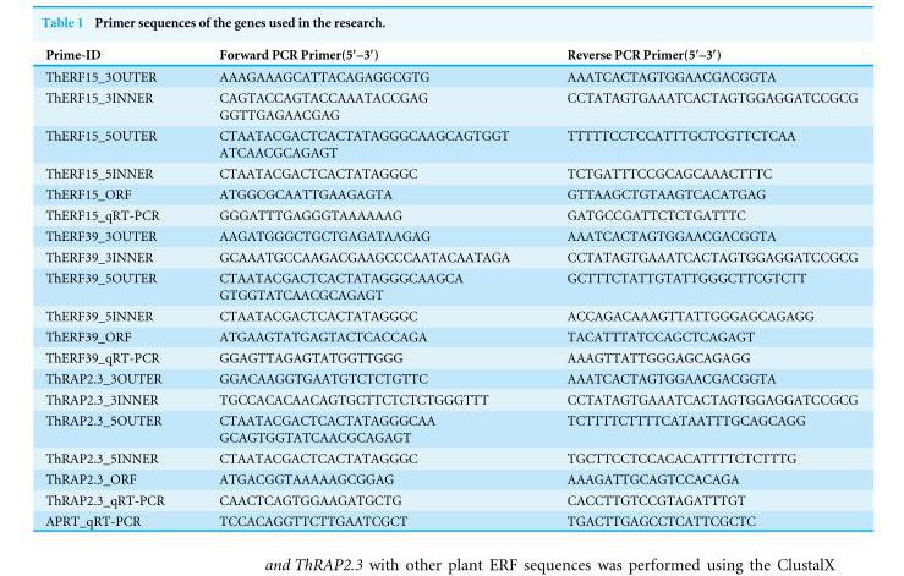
<table><thead><tr><td>Prime-ID</td><td>Forward PCR Primer(5′–3′)</td><td>Reverse PCR Primer(5′–3′)</td></tr></thead><tbody><tr><td>ThERF15_3OUTER</td><td>AAAGAAAGCATTACAGAGGCGTG</td><td>AAATCACTAGTGGAACGACGGTA</td></tr><tr><td>ThERF15_3INNER</td><td>CAGTACCAGTACCAAATACCGAG GGTTGAGAACGAG</td><td>CCTATAGTGAAATCACTAGTGGAGGATCCGCG</td></tr><tr><td>ThERF15_5OUTER</td><td>CTAATACGACTCACTATAGGGCAAGCAGTGGT ATCAACGCAGAGT</td><td>TTTTTCCTCCATTTGCTCGTTCTCAA</td></tr><tr><td>ThERF15_5INNER</td><td>CTAATACGACTCACTATAGGGC</td><td>TCTGATTTCCGCAGCAAACTTTC</td></tr><tr><td>ThERF15_ORF</td><td>ATGGCGCAATTGAAGAGTA</td><td>GTTAAGCTGTAAGTCACATGAG</td></tr><tr><td>ThERF15_qRT-PCR</td><td>GGGATTTGAGGGTAAAAAAG</td><td>GATGCCGATTCTCTGATTTC</td></tr><tr><td>ThERF39_3OUTER</td><td>AAGATGGGCTGCTGAGATAAGAG</td><td>AAATCACTAGTGGAACGACGGTA</td></tr><tr><td>ThERF39_3INNER</td><td>GCAAATGCCAAGACGAAGCCCAATACAATAGA</td><td>CCTATAGTGAAATCACTAGTGGAGGATCCGCG</td></tr><tr><td>ThERF39_5OUTER</td><td>CTAATACGACTCACTATAGGGCAAGCA GTGGTATCAACGCAGAGT</td><td>GCTTTCTATTGTATTGGGCTTCGTCTT</td></tr><tr><td>ThERF39_5INNER</td><td>CTAATACGACTCACTATAGGGC</td><td>ACCAGACAAAGTTATTGGGAGCAGAGG</td></tr><tr><td>ThERF39_ORF</td><td>ATGAAGTATGAGTACTCACCAGA</td><td>TACATTTATCCAGCTCAGAGT</td></tr><tr><td>ThERF39_qRT-PCR</td><td>GGAGTTAGAGTATGGTTGGG</td><td>AAAGTTATTGGGAGCAGAGG</td></tr><tr><td>ThRAP2.3_3OUTER</td><td>GGACAAGGTGAATGTCTCTGTTC</td><td>AAATCACTAGTGGAACGACGGTA</td></tr><tr><td>ThRAP2.3_3INNER</td><td>TGCCACACAACAGTGCTTCTCTCTGGGTTT</td><td>CCTATAGTGAAATCACTAGTGGAGGATCCGCG</td></tr><tr><td>ThRAP2.3_5OUTER</td><td>CTAATACGACTCACTATAGGGCAA GCAGTGGTATCAACGCAGAGT</td><td>TCTTTTCTTTTCATAATTTGCAGCAGG</td></tr><tr><td>ThRAP2.3_5INNER</td><td>CTAATACGACTCACTATAGGGC</td><td>TGCTTCCTCCACACATTTTCTCTTTG</td></tr><tr><td>ThRAP2.3_ORF</td><td>ATGACGGTAAAAAGCGGAG</td><td>AAAGATTGCAGTCCACAGA</td></tr><tr><td>ThRAP2.3_qRT-PCR</td><td>CAACTCAGTGGAAGATGCTG</td><td>CACCTTGTCCGTAGATTTGT</td></tr><tr><td>APRT_qRT-PCR</td><td>TCCACAGGTTCTTGAATCGCT</td><td>TGACTTGAGCCTCATTCGCTC</td></tr></tbody></table>